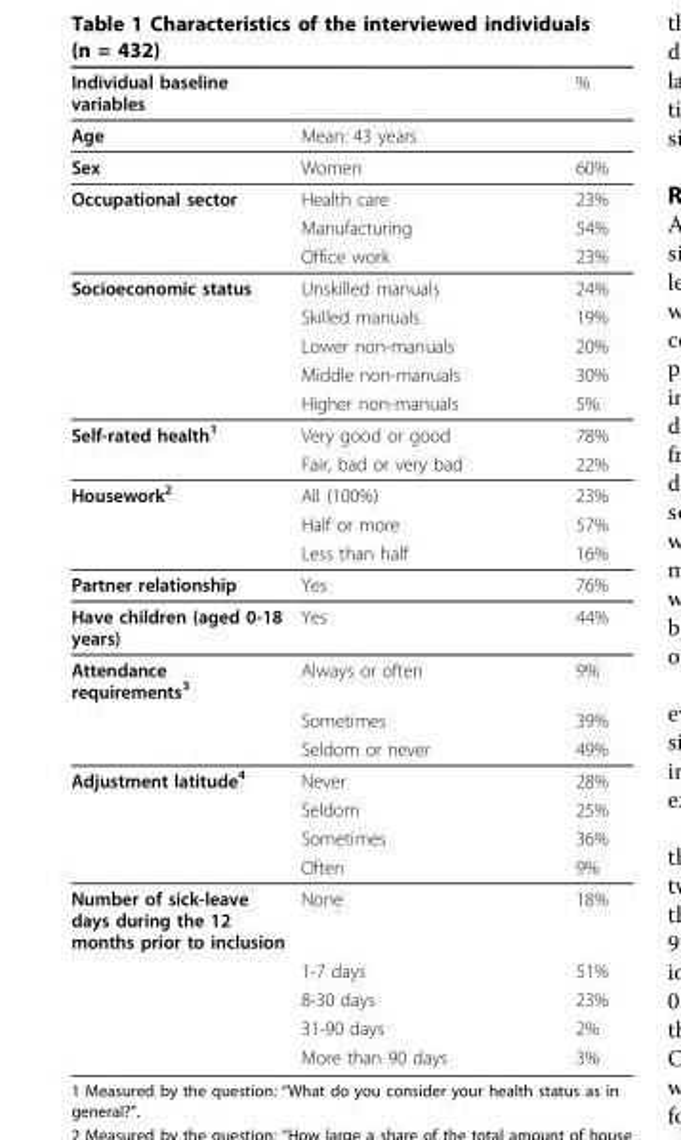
<table><thead><tr><td>Individual baseline variables</td><td></td><td>%</td></tr></thead><tbody><tr><td>Age</td><td>Mean: 43 years</td><td></td></tr><tr><td>Sex</td><td>Women</td><td>60%</td></tr><tr><td rowspan="3">Occupational sector</td><td>Health care</td><td>23%</td></tr><tr><td>Manufacturing</td><td>54%</td></tr><tr><td>Office work</td><td>23%</td></tr><tr><td rowspan="5">Socioeconomic status</td><td>Unskilled manuals</td><td>24%</td></tr><tr><td>Skilled manuals</td><td>19%</td></tr><tr><td>Lower non-manuals</td><td>20%</td></tr><tr><td>Middle non-manuals</td><td>30%</td></tr><tr><td>Higher non-manuals</td><td>5%</td></tr><tr><td rowspan="2">Self-rated health<sup>1</sup></td><td>Very good or good</td><td>78%</td></tr><tr><td>Fair, bad or very bad</td><td>22%</td></tr><tr><td rowspan="3">Housework<sup>2</sup></td><td>All (100%)</td><td>23%</td></tr><tr><td>Half or more</td><td>57%</td></tr><tr><td>Less than half</td><td>16%</td></tr><tr><td>Partner relationship</td><td>Yes</td><td>76%</td></tr><tr><td>Have children (aged 0-18 years)</td><td>Yes</td><td>44%</td></tr><tr><td rowspan="3">Attendance requirements<sup>3</sup></td><td>Always or often</td><td>9%</td></tr><tr><td>Sometimes</td><td>39%</td></tr><tr><td>Seldom or never</td><td>49%</td></tr><tr><td rowspan="4">Adjustment latitude<sup>4</sup></td><td>Never</td><td>28%</td></tr><tr><td>Seldom</td><td>25%</td></tr><tr><td>Sometimes</td><td>36%</td></tr><tr><td>Often</td><td>9%</td></tr><tr><td rowspan="5">Number of sick-leave days during the 12 months prior to inclusion</td><td>None</td><td>18%</td></tr><tr><td>1-7 days</td><td>51%</td></tr><tr><td>8-30 days</td><td>23%</td></tr><tr><td>31-90 days</td><td>2%</td></tr><tr><td>More than 90 days</td><td>3%</td></tr></tbody></table>